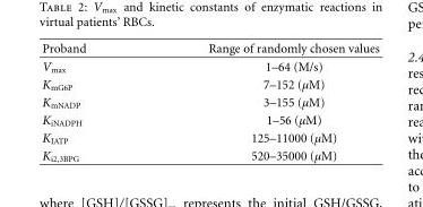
<table><thead><tr><td>Proband</td><td>Range of randomly chosen values</td></tr></thead><tbody><tr><td>V<sub>max</sub></td><td>1–64 (M/s)</td></tr><tr><td>K<sub>mG6P</sub></td><td>7–152 (µM)</td></tr><tr><td>K<sub>mNADP</sub></td><td>3–155 (µM)</td></tr><tr><td>K<sub>iNADPH</sub></td><td>1–56 (µM)</td></tr><tr><td>K<sub>IATP</sub></td><td>125–11000 (µM)</td></tr><tr><td>K<sub>i2,3BPG</sub></td><td>520–35000 (µM)</td></tr></tbody></table>